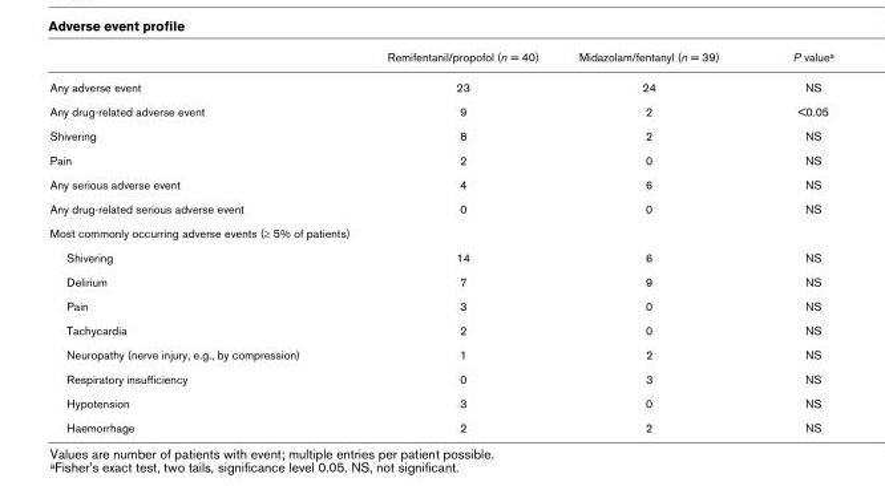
<table><thead><tr><td></td><td>Remifentanil/propofol (n = 40)</td><td>Midazolam/fentanyl (n = 39)</td><td>P valuea</td></tr></thead><tbody><tr><td>Any adverse event</td><td>23</td><td>24</td><td>NS</td></tr><tr><td>Any drug-related adverse event</td><td>9</td><td>2</td><td>&lt;0.05</td></tr><tr><td>Shivering</td><td>8</td><td>2</td><td>NS</td></tr><tr><td>Pain</td><td>2</td><td>0</td><td>NS</td></tr><tr><td>Any serious adverse event</td><td>4</td><td>6</td><td>NS</td></tr><tr><td>Any drug-related serious adverse event</td><td>0</td><td>0</td><td>NS</td></tr><tr><td colspan="4">Most commonly occurring adverse events (≥ 5% of patients)</td></tr><tr><td>Shivering</td><td>14</td><td>6</td><td>NS</td></tr><tr><td>Delirium</td><td>7</td><td>9</td><td>NS</td></tr><tr><td>Pain</td><td>3</td><td>0</td><td>NS</td></tr><tr><td>Tachycardia</td><td>2</td><td>0</td><td>NS</td></tr><tr><td>Neuropathy (nerve injury, e.g., by compression)</td><td>1</td><td>2</td><td>NS</td></tr><tr><td>Respiratory insufficiency</td><td>0</td><td>3</td><td>NS</td></tr><tr><td>Hypotension</td><td>3</td><td>0</td><td>NS</td></tr><tr><td>Haemorrhage</td><td>2</td><td>2</td><td>NS</td></tr></tbody></table>